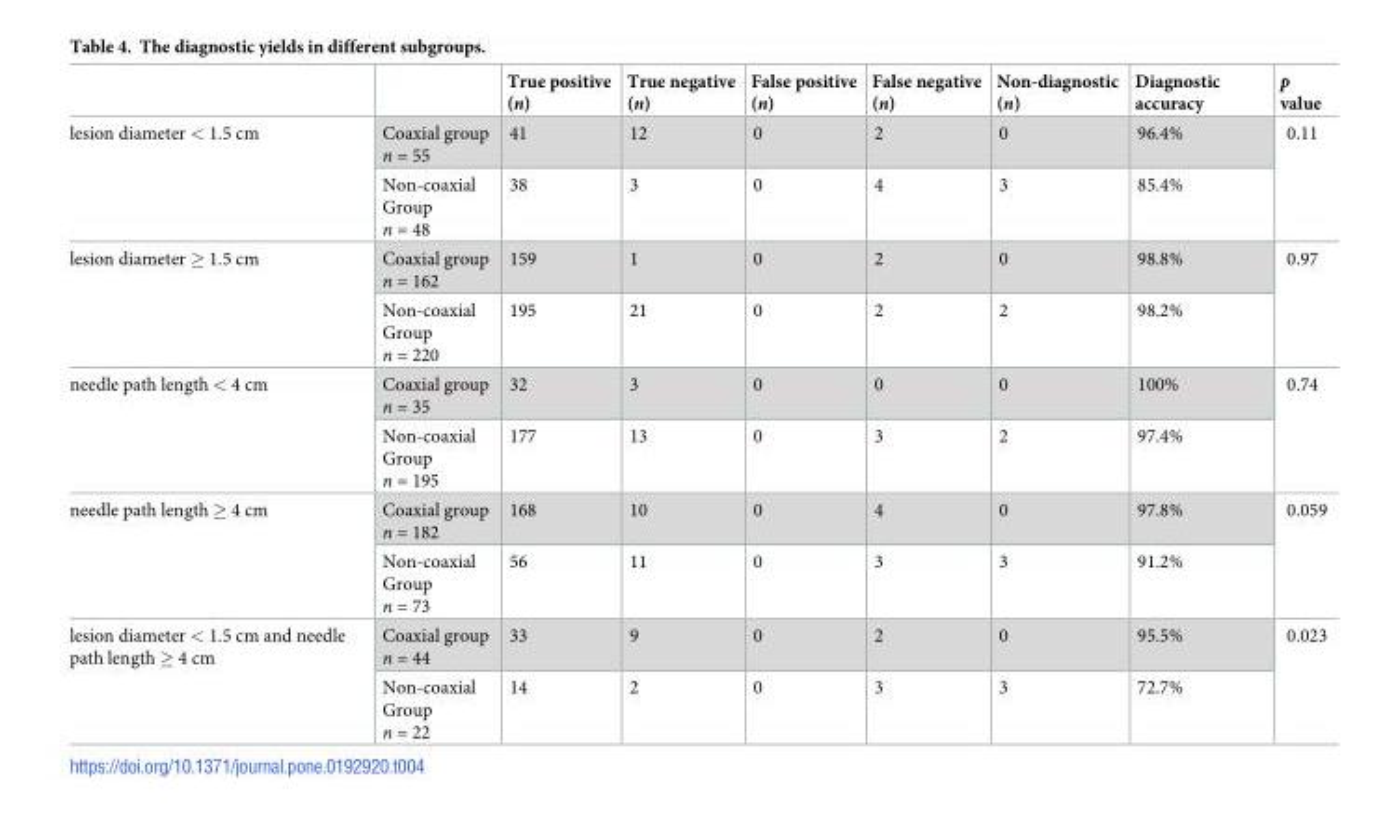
<table><thead><tr><td></td><td></td><td>True positive (n)</td><td>True negative (n)</td><td>False positive (n)</td><td>False negative (n)</td><td>Non-diagnostic (n)</td><td>Diagnostic accuracy</td><td>p value</td></tr></thead><tbody><tr><td rowspan="2">lesion diameter &lt; 1.5 cm</td><td>Coaxial group n = 55</td><td>41</td><td>12</td><td>0</td><td>2</td><td>0</td><td>96.4%</td><td rowspan="2">0.11</td></tr><tr><td>Non-coaxial Group n = 48</td><td>38</td><td>3</td><td>0</td><td>4</td><td>3</td><td>85.4%</td></tr><tr><td rowspan="2">lesion diameter ≥ 1.5 cm</td><td>Coaxial group n = 162</td><td>159</td><td>1</td><td>0</td><td>2</td><td>0</td><td>98.8%</td><td rowspan="2">0.97</td></tr><tr><td>Non-coaxial Group n = 220</td><td>195</td><td>21</td><td>0</td><td>2</td><td>2</td><td>98.2%</td></tr><tr><td rowspan="2">needle path length &lt; 4 cm</td><td>Coaxial group n = 35</td><td>32</td><td>3</td><td>0</td><td>0</td><td>0</td><td>100%</td><td rowspan="2">0.74</td></tr><tr><td>Non-coaxial Group n = 195</td><td>177</td><td>13</td><td>0</td><td>3</td><td>2</td><td>97.4%</td></tr><tr><td rowspan="2">needle path length ≥ 4 cm</td><td>Coaxial group n = 182</td><td>168</td><td>10</td><td>0</td><td>4</td><td>0</td><td>97.8%</td><td rowspan="2">0.059</td></tr><tr><td>Non-coaxial Group n = 73</td><td>56</td><td>11</td><td>0</td><td>3</td><td>3</td><td>91.2%</td></tr><tr><td rowspan="2">lesion diameter &lt; 1.5 cm and needle path length ≥ 4 cm</td><td>Coaxial group n = 44</td><td>33</td><td>9</td><td>0</td><td>2</td><td>0</td><td>95.5%</td><td rowspan="2">0.023</td></tr><tr><td>Non-coaxial Group n = 22</td><td>14</td><td>2</td><td>0</td><td>3</td><td>3</td><td>72.7%</td></tr></tbody></table>